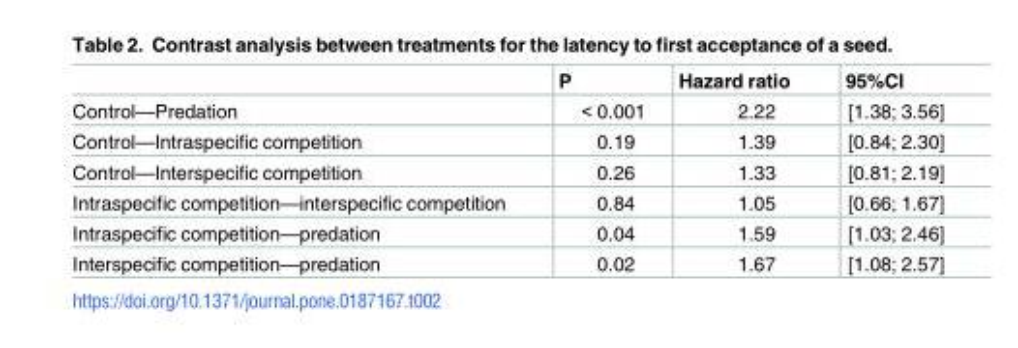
<table><thead><tr><td></td><td>P</td><td>Hazard ratio</td><td>95%CI</td></tr></thead><tbody><tr><td>Control—Predation</td><td>&lt; 0.001</td><td>2.22</td><td>[1.38; 3.56]</td></tr><tr><td>Control—Intraspecific competition</td><td>0.19</td><td>1.39</td><td>[0.84; 2.30]</td></tr><tr><td>Control—Interspecific competition</td><td>0.26</td><td>1.33</td><td>[0.81; 2.19]</td></tr><tr><td>Intraspecific competition—interspecific competition</td><td>0.84</td><td>1.05</td><td>[0.66; 1.67]</td></tr><tr><td>Intraspecific competition—predation</td><td>0.04</td><td>1.59</td><td>[1.03; 2.46]</td></tr><tr><td>Interspecific competition—predation</td><td>0.02</td><td>1.67</td><td>[1.08; 2.57]</td></tr></tbody></table>